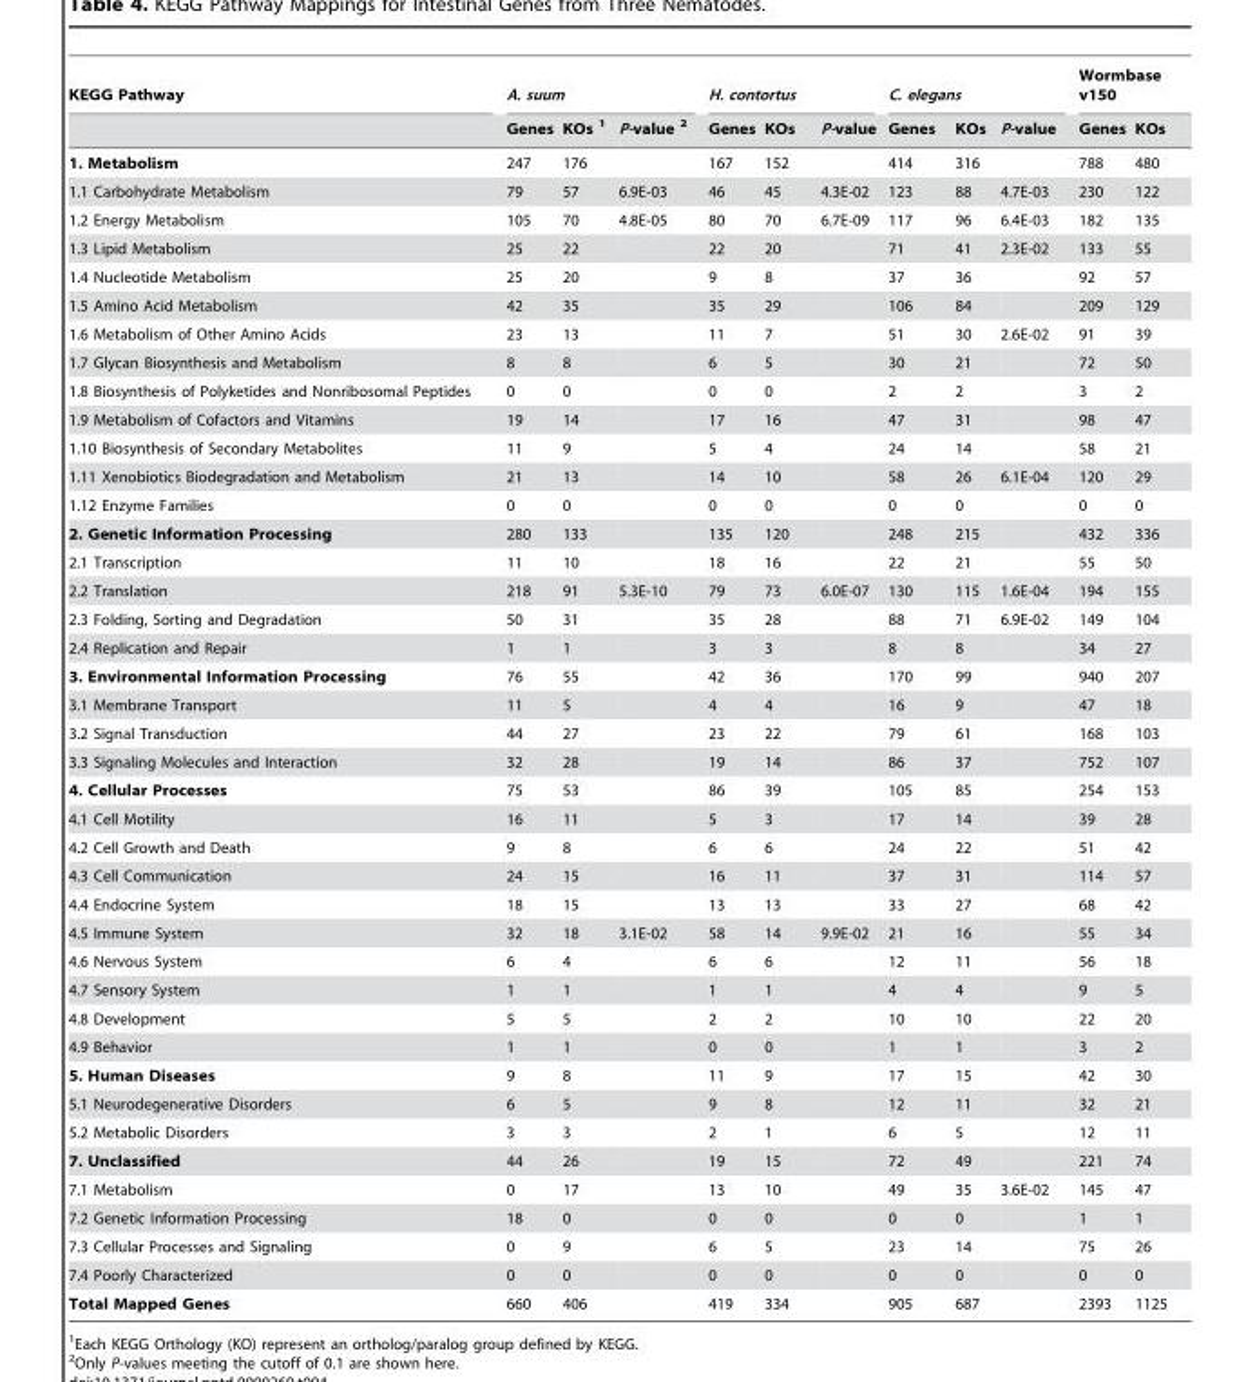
<table><thead><tr><td rowspan="2">KEGG Pathway</td><td colspan="3">A. suum</td><td colspan="3">H. contortus</td><td colspan="3">C. elegans</td><td colspan="2">Wormbase v150</td></tr><tr><td>Genes</td><td>KOs 1</td><td>P-value 2</td><td>Genes</td><td>KOs</td><td>P-value</td><td>Genes</td><td>KOs</td><td>P-value</td><td>Genes</td><td>KOs</td></tr></thead><tbody><tr><td>1. Metabolism</td><td>247</td><td>176</td><td></td><td>167</td><td>152</td><td></td><td>414</td><td>316</td><td></td><td>788</td><td>480</td></tr><tr><td>1.1 Carbohydrate Metabolism</td><td>79</td><td>57</td><td>6.9E-03</td><td>46</td><td>45</td><td>4.3E-02</td><td>123</td><td>88</td><td>4.7E-03</td><td>230</td><td>122</td></tr><tr><td>1.2 Energy Metabolism</td><td>105</td><td>70</td><td>4.8E-05</td><td>80</td><td>70</td><td>6.7E-09</td><td>117</td><td>96</td><td>6.4E-03</td><td>182</td><td>135</td></tr><tr><td>1.3 Lipid Metabolism</td><td>25</td><td>22</td><td></td><td>22</td><td>20</td><td></td><td>71</td><td>41</td><td>2.3E-02</td><td>133</td><td>55</td></tr><tr><td>1.4 Nucleotide Metabolism</td><td>25</td><td>20</td><td></td><td>9</td><td>8</td><td></td><td>37</td><td>36</td><td></td><td>92</td><td>57</td></tr><tr><td>1.5 Amino Acid Metabolism</td><td>42</td><td>35</td><td></td><td>35</td><td>29</td><td></td><td>106</td><td>84</td><td></td><td>209</td><td>129</td></tr><tr><td>1.6 Metabolism of Other Amino Acids</td><td>23</td><td>13</td><td></td><td>11</td><td>7</td><td></td><td>51</td><td>30</td><td>2.6E-02</td><td>91</td><td>39</td></tr><tr><td>1.7 Glycan Biosynthesis and Metabolism</td><td>8</td><td>8</td><td></td><td>6</td><td>5</td><td></td><td>30</td><td>21</td><td></td><td>72</td><td>50</td></tr><tr><td>1.8 Biosynthesis of Polyketides and Nonribosomal Peptides</td><td>0</td><td>0</td><td></td><td>0</td><td>0</td><td></td><td>2</td><td>2</td><td></td><td>3</td><td>2</td></tr><tr><td>1.9 Metabolism of Cofactors and Vitamins</td><td>19</td><td>14</td><td></td><td>17</td><td>16</td><td></td><td>47</td><td>31</td><td></td><td>98</td><td>47</td></tr><tr><td>1.10 Biosynthesis of Secondary Metabolites</td><td>11</td><td>9</td><td></td><td>5</td><td>4</td><td></td><td>24</td><td>14</td><td></td><td>58</td><td>21</td></tr><tr><td>1.11 Xenobiotics Biodegradation and Metabolism</td><td>21</td><td>13</td><td></td><td>14</td><td>10</td><td></td><td>58</td><td>26</td><td>6.1E-04</td><td>120</td><td>29</td></tr><tr><td>1.12 Enzyme Families</td><td>0</td><td>0</td><td></td><td>0</td><td>0</td><td></td><td>0</td><td>0</td><td></td><td>0</td><td>0</td></tr><tr><td>2. Genetic Information Processing</td><td>280</td><td>133</td><td></td><td>135</td><td>120</td><td></td><td>248</td><td>215</td><td></td><td>432</td><td>336</td></tr><tr><td>2.1 Transcription</td><td>11</td><td>10</td><td></td><td>18</td><td>16</td><td></td><td>22</td><td>21</td><td></td><td>55</td><td>50</td></tr><tr><td>2.2 Translation</td><td>218</td><td>91</td><td>5.3E-10</td><td>79</td><td>73</td><td>6.0E-07</td><td>130</td><td>115</td><td>1.6E-04</td><td>194</td><td>155</td></tr><tr><td>2.3 Folding, Sorting and Degradation</td><td>50</td><td>31</td><td></td><td>35</td><td>28</td><td></td><td>88</td><td>71</td><td>6.9E-02</td><td>149</td><td>104</td></tr><tr><td>2.4 Replication and Repair</td><td>1</td><td>1</td><td></td><td>3</td><td>3</td><td></td><td>8</td><td>8</td><td></td><td>34</td><td>27</td></tr><tr><td>3. Environmental Information Processing</td><td>76</td><td>55</td><td></td><td>42</td><td>36</td><td></td><td>170</td><td>99</td><td></td><td>940</td><td>207</td></tr><tr><td>3.1 Membrane Transport</td><td>11</td><td>5</td><td></td><td>4</td><td>4</td><td></td><td>16</td><td>9</td><td></td><td>47</td><td>18</td></tr><tr><td>3.2 Signal Transduction</td><td>44</td><td>27</td><td></td><td>23</td><td>22</td><td></td><td>79</td><td>61</td><td></td><td>168</td><td>103</td></tr><tr><td>3.3 Signaling Molecules and Interaction</td><td>32</td><td>28</td><td></td><td>19</td><td>14</td><td></td><td>86</td><td>37</td><td></td><td>752</td><td>107</td></tr><tr><td>4. Cellular Processes</td><td>75</td><td>53</td><td></td><td>86</td><td>39</td><td></td><td>105</td><td>85</td><td></td><td>254</td><td>153</td></tr><tr><td>4.1 Cell Motility</td><td>16</td><td>11</td><td></td><td>5</td><td>3</td><td></td><td>17</td><td>14</td><td></td><td>39</td><td>28</td></tr><tr><td>4.2 Cell Growth and Death</td><td>9</td><td>8</td><td></td><td>6</td><td>6</td><td></td><td>24</td><td>22</td><td></td><td>51</td><td>42</td></tr><tr><td>4.3 Cell Communication</td><td>24</td><td>15</td><td></td><td>16</td><td>11</td><td></td><td>37</td><td>31</td><td></td><td>114</td><td>57</td></tr><tr><td>4.4 Endocrine System</td><td>18</td><td>15</td><td></td><td>13</td><td>13</td><td></td><td>33</td><td>27</td><td></td><td>68</td><td>42</td></tr><tr><td>4.5 Immune System</td><td>32</td><td>18</td><td>3.1E-02</td><td>58</td><td>14</td><td>9.9E-02</td><td>21</td><td>16</td><td></td><td>55</td><td>34</td></tr><tr><td>4.6 Nervous System</td><td>6</td><td>4</td><td></td><td>6</td><td>6</td><td></td><td>12</td><td>11</td><td></td><td>56</td><td>18</td></tr><tr><td>4.7 Sensory System</td><td>1</td><td>1</td><td></td><td>1</td><td>1</td><td></td><td>4</td><td>4</td><td></td><td>9</td><td>5</td></tr><tr><td>4.8 Development</td><td>5</td><td>5</td><td></td><td>2</td><td>2</td><td></td><td>10</td><td>10</td><td></td><td>22</td><td>20</td></tr><tr><td>4.9 Behavior</td><td>1</td><td>1</td><td></td><td>0</td><td>0</td><td></td><td>1</td><td>1</td><td></td><td>3</td><td>2</td></tr><tr><td>5. Human Diseases</td><td>9</td><td>8</td><td></td><td>11</td><td>9</td><td></td><td>17</td><td>15</td><td></td><td>42</td><td>30</td></tr><tr><td>5.1 Neurodegenerative Disorders</td><td>6</td><td>5</td><td></td><td>9</td><td>8</td><td></td><td>12</td><td>11</td><td></td><td>32</td><td>21</td></tr><tr><td>5.2 Metabolic Disorders</td><td>3</td><td>3</td><td></td><td>2</td><td>1</td><td></td><td>6</td><td>5</td><td></td><td>12</td><td>11</td></tr><tr><td>7. Unclassified</td><td>44</td><td>26</td><td></td><td>19</td><td>15</td><td></td><td>72</td><td>49</td><td></td><td>221</td><td>74</td></tr><tr><td>7.1 Metabolism</td><td>0</td><td>17</td><td></td><td>13</td><td>10</td><td></td><td>49</td><td>35</td><td>3.6E-02</td><td>145</td><td>47</td></tr><tr><td>7.2 Genetic Information Processing</td><td>18</td><td>0</td><td></td><td>0</td><td>0</td><td></td><td>0</td><td>0</td><td></td><td>1</td><td>1</td></tr><tr><td>7.3 Cellular Processes and Signaling</td><td>0</td><td>9</td><td></td><td>6</td><td>5</td><td></td><td>23</td><td>14</td><td></td><td>75</td><td>26</td></tr><tr><td>7.4 Poorly Characterized</td><td>0</td><td>0</td><td></td><td>0</td><td>0</td><td></td><td>0</td><td>0</td><td></td><td>0</td><td>0</td></tr><tr><td>Total Mapped Genes</td><td>660</td><td>406</td><td></td><td>419</td><td>334</td><td></td><td>905</td><td>687</td><td></td><td>2393</td><td>1125</td></tr></tbody></table>